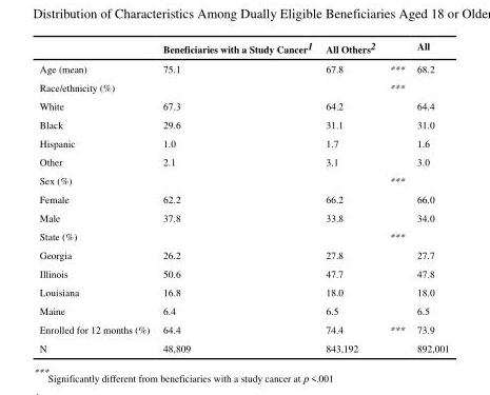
<table><thead><tr><td></td><td>Beneficiaries with a Study Cancer<sup>1</sup></td><td>All Others<sup>2</sup></td><td></td><td>All</td></tr></thead><tbody><tr><td>Age (mean)</td><td>75.1</td><td>67.8</td><td>***</td><td>68.2</td></tr><tr><td>Race/ethnicity (%)</td><td></td><td></td><td>***</td><td></td></tr><tr><td>White</td><td>67.3</td><td>64.2</td><td></td><td>64.4</td></tr><tr><td>Black</td><td>29.6</td><td>31.1</td><td></td><td>31.0</td></tr><tr><td>Hispanic</td><td>1.0</td><td>1.7</td><td></td><td>1.6</td></tr><tr><td>Other</td><td>2.1</td><td>3.1</td><td></td><td>3.0</td></tr><tr><td>Sex (%)</td><td></td><td></td><td>***</td><td></td></tr><tr><td>Female</td><td>62.2</td><td>66.2</td><td></td><td>66.0</td></tr><tr><td>Male</td><td>37.8</td><td>33.8</td><td></td><td>34.0</td></tr><tr><td>State (%)</td><td></td><td></td><td>***</td><td></td></tr><tr><td>Georgia</td><td>26.2</td><td>27.8</td><td></td><td>27.7</td></tr><tr><td>Illinois</td><td>50.6</td><td>47.7</td><td></td><td>47.8</td></tr><tr><td>Louisiana</td><td>16.8</td><td>18.0</td><td></td><td>18.0</td></tr><tr><td>Maine</td><td>6.4</td><td>6.5</td><td></td><td>6.5</td></tr><tr><td>Enrolled for 12 months (%)</td><td>64.4</td><td>74.4</td><td>***</td><td>73.9</td></tr><tr><td>N</td><td>48,809</td><td>843,192</td><td></td><td>892,001</td></tr></tbody></table>